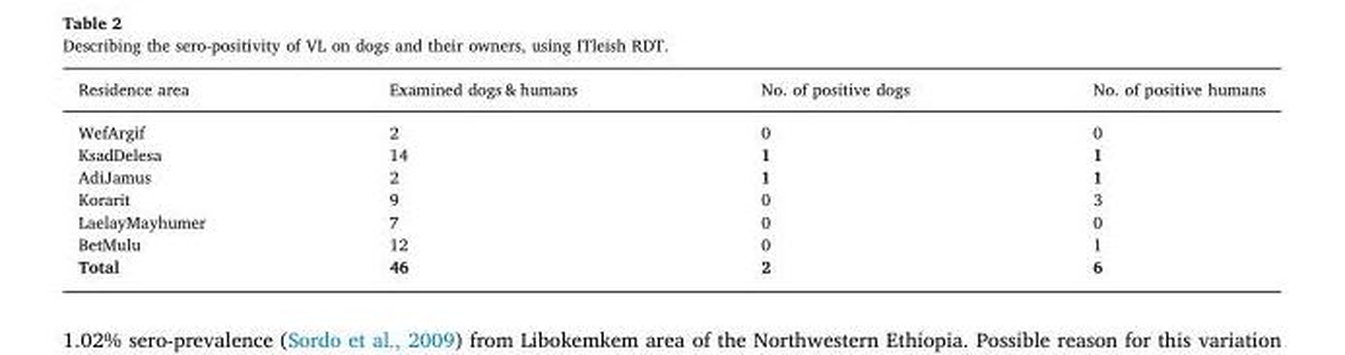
<table><thead><tr><td>Residence area</td><td>Examined dogs &amp; humans</td><td>No. of positive dogs</td><td>No. of positive humans</td></tr></thead><tbody><tr><td>WefArgif</td><td>2</td><td>0</td><td>0</td></tr><tr><td>KsadDelesa</td><td>14</td><td>1</td><td>1</td></tr><tr><td>AdiJamus</td><td>2</td><td>1</td><td>1</td></tr><tr><td>Korarit</td><td>9</td><td>0</td><td>3</td></tr><tr><td>LaelayMayhumer</td><td>7</td><td>0</td><td>0</td></tr><tr><td>BetMulu</td><td>12</td><td>0</td><td>1</td></tr><tr><td>Total</td><td>46</td><td>2</td><td>6</td></tr></tbody></table>